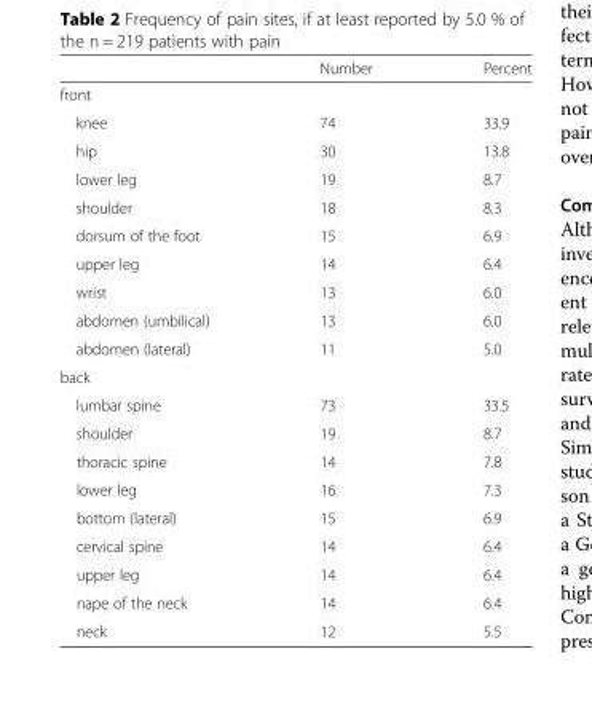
<table><thead><tr><td></td><td>Number</td><td>Percent</td></tr></thead><tbody><tr><td colspan="3">front</td></tr><tr><td>knee</td><td>74</td><td>33.9</td></tr><tr><td>hip</td><td>30</td><td>13.8</td></tr><tr><td>lower leg</td><td>19</td><td>8.7</td></tr><tr><td>shoulder</td><td>18</td><td>8.3</td></tr><tr><td>dorsum of the foot</td><td>15</td><td>6.9</td></tr><tr><td>upper leg</td><td>14</td><td>6.4</td></tr><tr><td>wrist</td><td>13</td><td>6.0</td></tr><tr><td>abdomen (umbilical)</td><td>13</td><td>6.0</td></tr><tr><td>abdomen (lateral)</td><td>11</td><td>5.0</td></tr><tr><td colspan="3">back</td></tr><tr><td>lumbar spine</td><td>73</td><td>33.5</td></tr><tr><td>shoulder</td><td>19</td><td>8.7</td></tr><tr><td>thoracic spine</td><td>14</td><td>7.8</td></tr><tr><td>lower leg</td><td>16</td><td>7.3</td></tr><tr><td>bottom (lateral)</td><td>15</td><td>6.9</td></tr><tr><td>cervical spine</td><td>14</td><td>6.4</td></tr><tr><td>upper leg</td><td>14</td><td>6.4</td></tr><tr><td>nape of the neck</td><td>14</td><td>6.4</td></tr><tr><td>neck</td><td>12</td><td>5.5</td></tr></tbody></table>